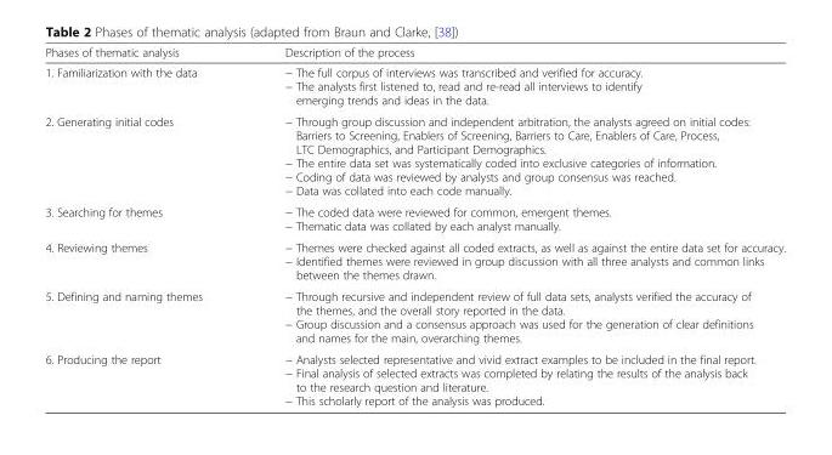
<table><thead><tr><td>Phases of thematic analysis</td><td>Description of the process</td></tr></thead><tbody><tr><td>1. Familiarization with the data</td><td>− The full corpus of interviews was transcribed and verified for accuracy. − The analysts first listened to, read and re-read all interviews to identify emerging trends and ideas in the data.</td></tr><tr><td>2. Generating initial codes</td><td>− Through group discussion and independent arbitration, the analysts agreed on initial codes: Barriers to Screening, Enablers of Screening, Barriers to Care, Enablers of Care, Process, LTC Demographics, and Participant Demographics. − The entire data set was systematically coded into exclusive categories of information. − Coding of data was reviewed by analysts and group consensus was reached. − Data was collated into each code manually.</td></tr><tr><td>3. Searching for themes</td><td>− The coded data were reviewed for common, emergent themes. − Thematic data was collated by each analyst manually.</td></tr><tr><td>4. Reviewing themes</td><td>− Themes were checked against all coded extracts, as well as against the entire data set for accuracy. − Identified themes were reviewed in group discussion with all three analysts and common links between the themes drawn.</td></tr><tr><td>5. Defining and naming themes</td><td>− Through recursive and independent review of full data sets, analysts verified the accuracy of the themes, and the overall story reported in the data. − Group discussion and a consensus approach was used for the generation of clear definitions and names for the main, overarching themes.</td></tr><tr><td>6. Producing the report</td><td>− Analysts selected representative and vivid extract examples to be included in the final report. − Final analysis of selected extracts was completed by relating the results of the analysis back to the research question and literature. − This scholarly report of the analysis was produced.</td></tr></tbody></table>